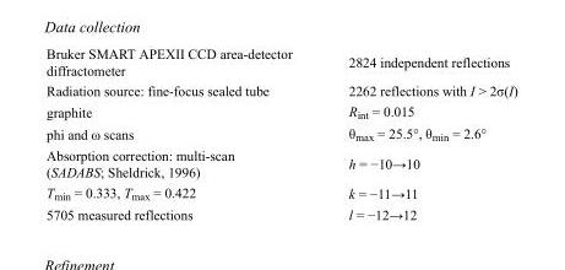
<table><tbody><tr><td>Bruker SMART APEXII CCD area-detector diffractometer</td><td>2824 independent reflections</td></tr><tr><td>Radiation source: fine-focus sealed tube</td><td>2262 reflections with I &gt; 2σ(I)</td></tr><tr><td>graphite</td><td>R<sub>int</sub> = 0.015</td></tr><tr><td>phi and ω scans</td><td>θ<sub>max</sub> = 25.5°, θ<sub>min</sub> = 2.6°</td></tr><tr><td>Absorption correction: multi-scan (SADABS; Sheldrick, 1996)</td><td>h = −10→10</td></tr><tr><td>T<sub>min</sub> = 0.333, T<sub>max</sub> = 0.422</td><td>k = −11→11</td></tr><tr><td>5705 measured reflections</td><td>l = −12→12</td></tr></tbody></table>